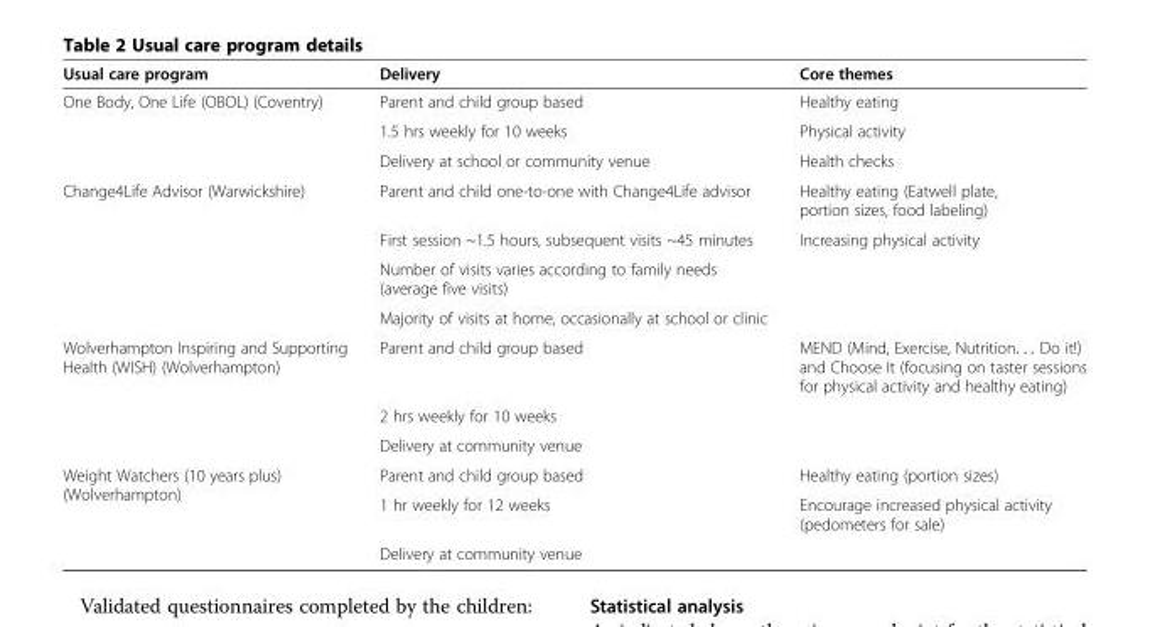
<table><thead><tr><td>Usual care program</td><td>Delivery</td><td>Core themes</td></tr></thead><tbody><tr><td rowspan="3">One Body, One Life (OBOL) (Coventry)</td><td>Parent and child group based</td><td>Healthy eating</td></tr><tr><td>1.5 hrs weekly for 10 weeks</td><td>Physical activity</td></tr><tr><td>Delivery at school or community venue</td><td>Health checks</td></tr><tr><td rowspan="4">Change4Life Advisor (Warwickshire)</td><td>Parent and child one-to-one with Change4Life advisor</td><td>Healthy eating (Eatwell plate, portion sizes, food labeling)</td></tr><tr><td>First session ~1.5 hours, subsequent visits ~45 minutes</td><td>Increasing physical activity</td></tr><tr><td>Number of visits varies according to family needs (average five visits)</td><td></td></tr><tr><td>Majority of visits at home, occasionally at school or clinic</td><td></td></tr><tr><td rowspan="3">Wolverhampton Inspiring and Supporting Health (WISH) (Wolverhampton)</td><td>Parent and child group based</td><td>MEND (Mind, Exercise, Nutrition. . . Do it!) and Choose It (focusing on taster sessions for physical activity and healthy eating)</td></tr><tr><td>2 hrs weekly for 10 weeks</td><td></td></tr><tr><td>Delivery at community venue</td><td></td></tr><tr><td rowspan="3">Weight Watchers (10 years plus) (Wolverhampton)</td><td>Parent and child group based</td><td>Healthy eating (portion sizes)</td></tr><tr><td>1 hr weekly for 12 weeks</td><td>Encourage increased physical activity (pedometers for sale)</td></tr><tr><td>Delivery at community venue</td><td></td></tr></tbody></table>